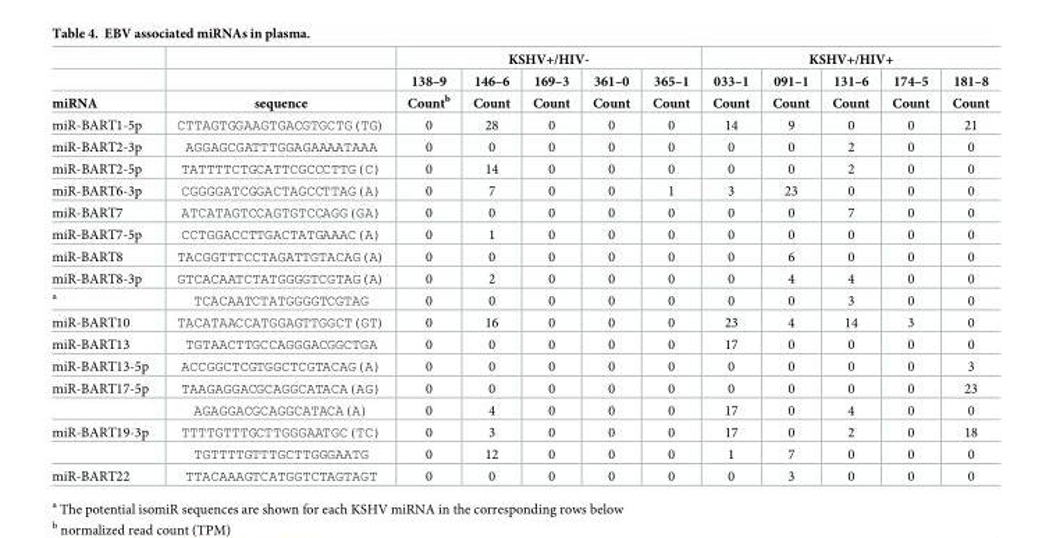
<table><thead><tr><td rowspan="3">miRNA</td><td rowspan="3">sequence</td><td colspan="5">KSHV+/HIV-</td><td colspan="5">KSHV+/HIV+</td></tr><tr><td rowspan="2">138–9 Count<sup>b</sup></td><td rowspan="2">146–6 Count</td><td rowspan="2">169–3 Count</td><td rowspan="2">361–0 Count</td><td rowspan="2">365–1 Count</td><td rowspan="2">033–1 Count</td><td rowspan="2">091–1 Count</td><td rowspan="2">131–6 Count</td><td rowspan="2">174–5 Count</td><td rowspan="2">181–8 Count</td></tr><tr></tr></thead><tbody><tr><td>miR-BART1-5p</td><td>CTTAGTGGAAGTGACGTGCTG(TG)</td><td>0</td><td>28</td><td>0</td><td>0</td><td>0</td><td>14</td><td>9</td><td>0</td><td>0</td><td>21</td></tr><tr><td>miR-BART2-3p</td><td>AGGAGCGATTTGGAGAAAATAAA</td><td>0</td><td>0</td><td>0</td><td>0</td><td>0</td><td>0</td><td>0</td><td>2</td><td>0</td><td>0</td></tr><tr><td>miR-BART2-5p</td><td>TATTTTCTGCATTCGCCCTTG(C)</td><td>0</td><td>14</td><td>0</td><td>0</td><td>0</td><td>0</td><td>0</td><td>2</td><td>0</td><td>0</td></tr><tr><td>miR-BART6-3p</td><td>CGGGGATCGGACTAGCCTTAG(A)</td><td>0</td><td>7</td><td>0</td><td>0</td><td>1</td><td>3</td><td>23</td><td>0</td><td>0</td><td>0</td></tr><tr><td>miR-BART7</td><td>ATCATAGTCCAGTGTCCAGG(GA)</td><td>0</td><td>0</td><td>0</td><td>0</td><td>0</td><td>0</td><td>0</td><td>7</td><td>0</td><td>0</td></tr><tr><td>miR-BART7-5p</td><td>CCTGGACCTTGACTATGAAAC(A)</td><td>0</td><td>1</td><td>0</td><td>0</td><td>0</td><td>0</td><td>0</td><td>0</td><td>0</td><td>0</td></tr><tr><td>miR-BART8</td><td>TACGGTTTCCTAGATTGTACAG(A)</td><td>0</td><td>0</td><td>0</td><td>0</td><td>0</td><td>0</td><td>6</td><td>0</td><td>0</td><td>0</td></tr><tr><td>miR-BART8-3p</td><td>GTCACAATCTATGGGGTCGTAG(A)</td><td>0</td><td>2</td><td>0</td><td>0</td><td>0</td><td>0</td><td>4</td><td>4</td><td>0</td><td>0</td></tr><tr><td><sup>a</sup></td><td>TCACAATCTATGGGGTCGTAG</td><td>0</td><td>0</td><td>0</td><td>0</td><td>0</td><td>0</td><td>0</td><td>3</td><td>0</td><td>0</td></tr><tr><td>miR-BART10</td><td>TACATAACCATGGAGTTGGCT(GT)</td><td>0</td><td>16</td><td>0</td><td>0</td><td>0</td><td>23</td><td>4</td><td>14</td><td>3</td><td>0</td></tr><tr><td>miR-BART13</td><td>TGTAACTTGCCAGGGACGGCTGA</td><td>0</td><td>0</td><td>0</td><td>0</td><td>0</td><td>17</td><td>0</td><td>0</td><td>0</td><td>0</td></tr><tr><td>miR-BART13-5p</td><td>ACCGGCTCGTGGCTCGTACAG(A)</td><td>0</td><td>0</td><td>0</td><td>0</td><td>0</td><td>0</td><td>0</td><td>0</td><td>0</td><td>3</td></tr><tr><td rowspan="2">miR-BART17-5p</td><td>TAAGAGGACGCAGGCATACA(AG)</td><td>0</td><td>0</td><td>0</td><td>0</td><td>0</td><td>0</td><td>0</td><td>0</td><td>0</td><td>23</td></tr><tr><td>AGAGGACGCAGGCATACA(A)</td><td>0</td><td>4</td><td>0</td><td>0</td><td>0</td><td>17</td><td>0</td><td>4</td><td>0</td><td>0</td></tr><tr><td rowspan="2">miR-BART19-3p</td><td>TTTTGTTTGCTTGGGAATGC(TC)</td><td>0</td><td>3</td><td>0</td><td>0</td><td>0</td><td>17</td><td>0</td><td>2</td><td>0</td><td>18</td></tr><tr><td>TGTTTTGTTTGCTTGGGAATG</td><td>0</td><td>12</td><td>0</td><td>0</td><td>0</td><td>1</td><td>7</td><td>0</td><td>0</td><td>0</td></tr><tr><td>miR-BART22</td><td>TTACAAAGTCATGGTCTAGTAGT</td><td>0</td><td>0</td><td>0</td><td>0</td><td>0</td><td>0</td><td>3</td><td>0</td><td>0</td><td>0</td></tr></tbody></table>